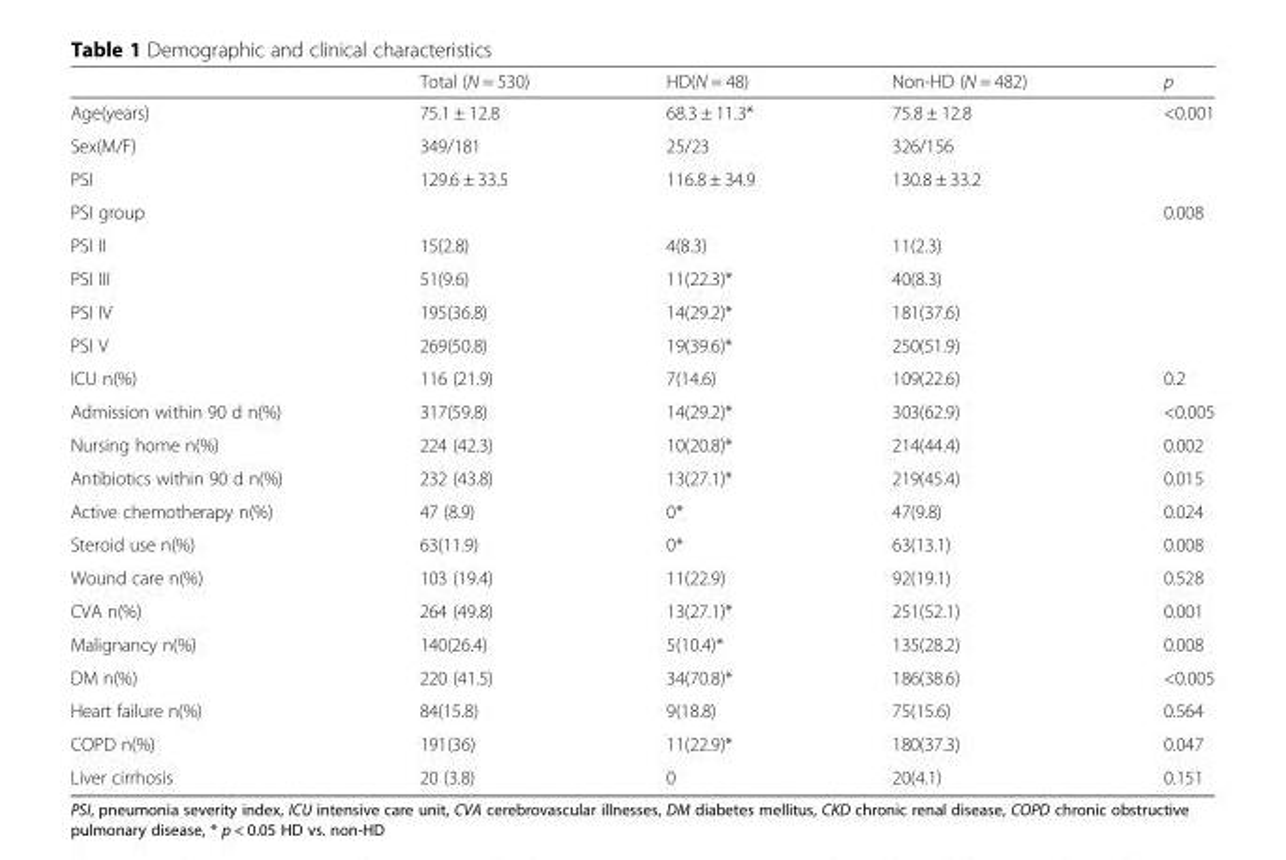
<table><thead><tr><td></td><td>Total (N = 530)</td><td>HD(N = 48)</td><td>Non-HD (N = 482)</td><td>p</td></tr></thead><tbody><tr><td>Age(years)</td><td>75.1 ± 12.8</td><td>68.3 ± 11.3*</td><td>75.8 ± 12.8</td><td>&lt;0.001</td></tr><tr><td>Sex(M/F)</td><td>349/181</td><td>25/23</td><td>326/156</td><td></td></tr><tr><td>PSI</td><td>129.6 ± 33.5</td><td>116.8 ± 34.9</td><td>130.8 ± 33.2</td><td></td></tr><tr><td>PSI group</td><td></td><td></td><td></td><td>0.008</td></tr><tr><td>PSI II</td><td>15(2.8)</td><td>4(8.3)</td><td>11(2.3)</td><td></td></tr><tr><td>PSI III</td><td>51(9.6)</td><td>11(22.3)*</td><td>40(8.3)</td><td></td></tr><tr><td>PSI IV</td><td>195(36.8)</td><td>14(29.2)*</td><td>181(37.6)</td><td></td></tr><tr><td>PSI V</td><td>269(50.8)</td><td>19(39.6)*</td><td>250(51.9)</td><td></td></tr><tr><td>ICU n(%)</td><td>116 (21.9)</td><td>7(14.6)</td><td>109(22.6)</td><td>0.2</td></tr><tr><td>Admission within 90 d n(%)</td><td>317(59.8)</td><td>14(29.2)*</td><td>303(62.9)</td><td>&lt;0.005</td></tr><tr><td>Nursing home n(%)</td><td>224 (42.3)</td><td>10(20.8)*</td><td>214(44.4)</td><td>0.002</td></tr><tr><td>Antibiotics within 90 d n(%)</td><td>232 (43.8)</td><td>13(27.1)*</td><td>219(45.4)</td><td>0.015</td></tr><tr><td>Active chemotherapy n(%)</td><td>47 (8.9)</td><td>0*</td><td>47(9.8)</td><td>0.024</td></tr><tr><td>Steroid use n(%)</td><td>63(11.9)</td><td>0*</td><td>63(13.1)</td><td>0.008</td></tr><tr><td>Wound care n(%)</td><td>103 (19.4)</td><td>11(22.9)</td><td>92(19.1)</td><td>0.528</td></tr><tr><td>CVA n(%)</td><td>264 (49.8)</td><td>13(27.1)*</td><td>251(52.1)</td><td>0.001</td></tr><tr><td>Malignancy n(%)</td><td>140(26.4)</td><td>5(10.4)*</td><td>135(28.2)</td><td>0.008</td></tr><tr><td>DM n(%)</td><td>220 (41.5)</td><td>34(70.8)*</td><td>186(38.6)</td><td>&lt;0.005</td></tr><tr><td>Heart failure n(%)</td><td>84(15.8)</td><td>9(18.8)</td><td>75(15.6)</td><td>0.564</td></tr><tr><td>COPD n(%)</td><td>191(36)</td><td>11(22.9)*</td><td>180(37.3)</td><td>0.047</td></tr><tr><td>Liver cirrhosis</td><td>20 (3.8)</td><td>0</td><td>20(4.1)</td><td>0.151</td></tr></tbody></table>